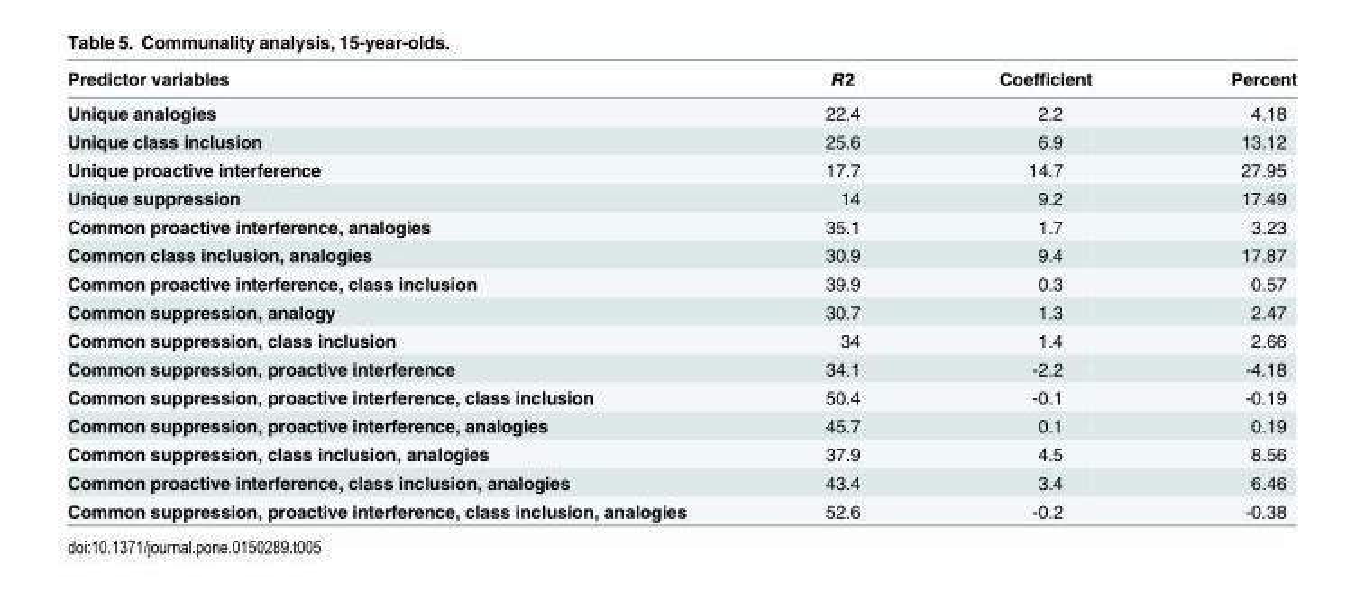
<table><thead><tr><td>Predictor variables</td><td>R2</td><td>Coefficient</td><td>Percent</td></tr></thead><tbody><tr><td>Unique analogies</td><td>22.4</td><td>2.2</td><td>4.18</td></tr><tr><td>Unique class inclusion</td><td>25.6</td><td>6.9</td><td>13.12</td></tr><tr><td>Unique proactive interference</td><td>17.7</td><td>14.7</td><td>27.95</td></tr><tr><td>Unique suppression</td><td>14</td><td>9.2</td><td>17.49</td></tr><tr><td>Common proactive interference, analogies</td><td>35.1</td><td>1.7</td><td>3.23</td></tr><tr><td>Common class inclusion, analogies</td><td>30.9</td><td>9.4</td><td>17.87</td></tr><tr><td>Common proactive interference, class inclusion</td><td>39.9</td><td>0.3</td><td>0.57</td></tr><tr><td>Common suppression, analogy</td><td>30.7</td><td>1.3</td><td>2.47</td></tr><tr><td>Common suppression, class inclusion</td><td>34</td><td>1.4</td><td>2.66</td></tr><tr><td>Common suppression, proactive interference</td><td>34.1</td><td>-2.2</td><td>-4.18</td></tr><tr><td>Common suppression, proactive interference, class inclusion</td><td>50.4</td><td>-0.1</td><td>-0.19</td></tr><tr><td>Common suppression, proactive interference, analogies</td><td>45.7</td><td>0.1</td><td>0.19</td></tr><tr><td>Common suppression, class inclusion, analogies</td><td>37.9</td><td>4.5</td><td>8.56</td></tr><tr><td>Common proactive interference, class inclusion, analogies</td><td>43.4</td><td>3.4</td><td>6.46</td></tr><tr><td>Common suppression, proactive interference, class inclusion, analogies</td><td>52.6</td><td>-0.2</td><td>-0.38</td></tr></tbody></table>